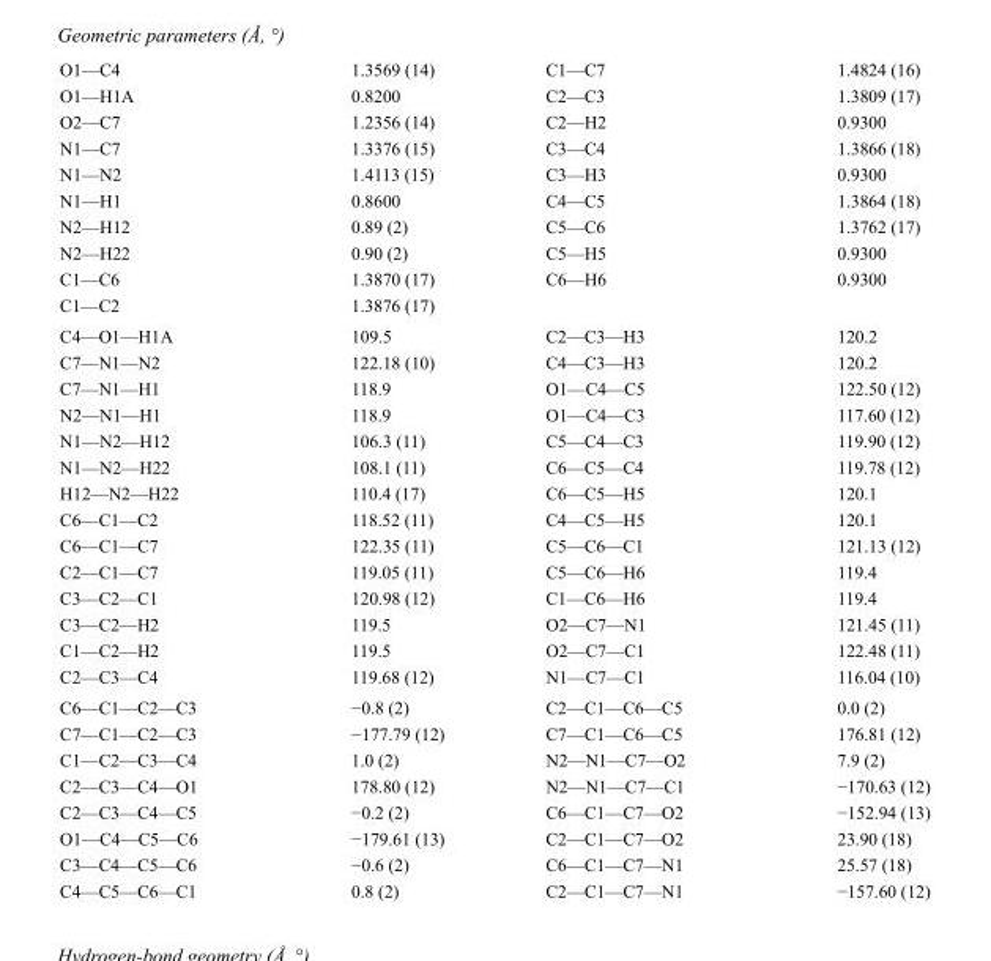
<table><tbody><tr><td>O1—C4</td><td>1.3569 (14)</td><td>C1—C7</td><td>1.4824 (16)</td></tr><tr><td>O1—H1A</td><td>0.8200</td><td>C2—C3</td><td>1.3809 (17)</td></tr><tr><td>O2—C7</td><td>1.2356 (14)</td><td>C2—H2</td><td>0.9300</td></tr><tr><td>N1—C7</td><td>1.3376 (15)</td><td>C3—C4</td><td>1.3866 (18)</td></tr><tr><td>N1—N2</td><td>1.4113 (15)</td><td>C3—H3</td><td>0.9300</td></tr><tr><td>N1—H1</td><td>0.8600</td><td>C4—C5</td><td>1.3864 (18)</td></tr><tr><td>N2—H12</td><td>0.89 (2)</td><td>C5—C6</td><td>1.3762 (17)</td></tr><tr><td>N2—H22</td><td>0.90 (2)</td><td>C5—H5</td><td>0.9300</td></tr><tr><td>C1—C6</td><td>1.3870 (17)</td><td>C6—H6</td><td>0.9300</td></tr><tr><td>C1—C2</td><td>1.3876 (17)</td><td></td><td></td></tr><tr><td>C4—O1—H1A</td><td>109.5</td><td>C2—C3—H3</td><td>120.2</td></tr><tr><td>C7—N1—N2</td><td>122.18 (10)</td><td>C4—C3—H3</td><td>120.2</td></tr><tr><td>C7—N1—H1</td><td>118.9</td><td>O1—C4—C5</td><td>122.50 (12)</td></tr><tr><td>N2—N1—H1</td><td>118.9</td><td>O1—C4—C3</td><td>117.60 (12)</td></tr><tr><td>N1—N2—H12</td><td>106.3 (11)</td><td>C5—C4—C3</td><td>119.90 (12)</td></tr><tr><td>N1—N2—H22</td><td>108.1 (11)</td><td>C6—C5—C4</td><td>119.78 (12)</td></tr><tr><td>H12—N2—H22</td><td>110.4 (17)</td><td>C6—C5—H5</td><td>120.1</td></tr><tr><td>C6—C1—C2</td><td>118.52 (11)</td><td>C4—C5—H5</td><td>120.1</td></tr><tr><td>C6—C1—C7</td><td>122.35 (11)</td><td>C5—C6—C1</td><td>121.13 (12)</td></tr><tr><td>C2—C1—C7</td><td>119.05 (11)</td><td>C5—C6—H6</td><td>119.4</td></tr><tr><td>C3—C2—C1</td><td>120.98 (12)</td><td>C1—C6—H6</td><td>119.4</td></tr><tr><td>C3—C2—H2</td><td>119.5</td><td>O2—C7—N1</td><td>121.45 (11)</td></tr><tr><td>C1—C2—H2</td><td>119.5</td><td>O2—C7—C1</td><td>122.48 (11)</td></tr><tr><td>C2—C3—C4</td><td>119.68 (12)</td><td>N1—C7—C1</td><td>116.04 (10)</td></tr><tr><td>C6—C1—C2—C3</td><td>−0.8 (2)</td><td>C2—C1—C6—C5</td><td>0.0 (2)</td></tr><tr><td>C7—C1—C2—C3</td><td>−177.79 (12)</td><td>C7—C1—C6—C5</td><td>176.81 (12)</td></tr><tr><td>C1—C2—C3—C4</td><td>1.0 (2)</td><td>N2—N1—C7—O2</td><td>7.9 (2)</td></tr><tr><td>C2—C3—C4—O1</td><td>178.80 (12)</td><td>N2—N1—C7—C1</td><td>−170.63 (12)</td></tr><tr><td>C2—C3—C4—C5</td><td>−0.2 (2)</td><td>C6—C1—C7—O2</td><td>−152.94 (13)</td></tr><tr><td>O1—C4—C5—C6</td><td>−179.61 (13)</td><td>C2—C1—C7—O2</td><td>23.90 (18)</td></tr><tr><td>C3—C4—C5—C6</td><td>−0.6 (2)</td><td>C6—C1—C7—N1</td><td>25.57 (18)</td></tr><tr><td>C4—C5—C6—C1</td><td>0.8 (2)</td><td>C2—C1—C7—N1</td><td>−157.60 (12)</td></tr></tbody></table>